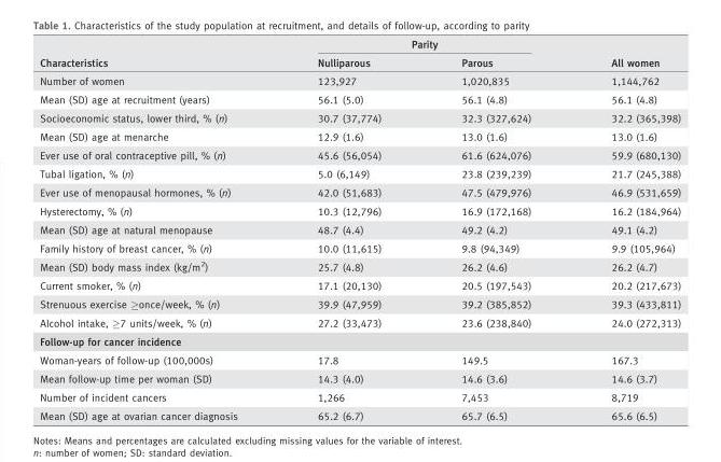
<table><thead><tr><td rowspan="2">Characteristics</td><td colspan="2">Parity</td><td rowspan="2">All women</td></tr><tr><td>Nulliparous</td><td>Parous</td></tr></thead><tbody><tr><td>Number of women</td><td>123,927</td><td>1,020,835</td><td>1,144,762</td></tr><tr><td>Mean (SD) age at recruitment (years)</td><td>56.1 (5.0)</td><td>56.1 (4.8)</td><td>56.1 (4.8)</td></tr><tr><td>Socioeconomic status, lower third, % (n)</td><td>30.7 (37,774)</td><td>32.3 (327,624)</td><td>32.2 (365,398)</td></tr><tr><td>Mean (SD) age at menarche</td><td>12.9 (1.6)</td><td>13.0 (1.6)</td><td>13.0 (1.6)</td></tr><tr><td>Ever use of oral contraceptive pill, % (n)</td><td>45.6 (56,054)</td><td>61.6 (624,076)</td><td>59.9 (680,130)</td></tr><tr><td>Tubal ligation, % (n)</td><td>5.0 (6,149)</td><td>23.8 (239,239)</td><td>21.7 (245,388)</td></tr><tr><td>Ever use of menopausal hormones, % (n)</td><td>42.0 (51,683)</td><td>47.5 (479,976)</td><td>46.9 (531,659)</td></tr><tr><td>Hysterectomy, % (n)</td><td>10.3 (12,796)</td><td>16.9 (172,168)</td><td>16.2 (184,964)</td></tr><tr><td>Mean (SD) age at natural menopause</td><td>48.7 (4.4)</td><td>49.2 (4.2)</td><td>49.1 (4.2)</td></tr><tr><td>Family history of breast cancer, % (n)</td><td>10.0 (11,615)</td><td>9.8 (94,349)</td><td>9.9 (105,964)</td></tr><tr><td>Mean (SD) body mass index (kg/m<sup>2</sup>)</td><td>25.7 (4.8)</td><td>26.2 (4.6)</td><td>26.2 (4.7)</td></tr><tr><td>Current smoker, % (n)</td><td>17.1 (20,130)</td><td>20.5 (197,543)</td><td>20.2 (217,673)</td></tr><tr><td>Strenuous exercise ≥once/week, % (n)</td><td>39.9 (47,959)</td><td>39.2 (385,852)</td><td>39.3 (433,811)</td></tr><tr><td>Alcohol intake, ≥7 units/week, % (n)</td><td>27.2 (33,473)</td><td>23.6 (238,840)</td><td>24.0 (272,313)</td></tr><tr><td colspan="4">Follow-up for cancer incidence</td></tr><tr><td>Woman-years of follow-up (100,000s)</td><td>17.8</td><td>149.5</td><td>167.3</td></tr><tr><td>Mean follow-up time per woman (SD)</td><td>14.3 (4.0)</td><td>14.6 (3.6)</td><td>14.6 (3.7)</td></tr><tr><td>Number of incident cancers</td><td>1,266</td><td>7,453</td><td>8,719</td></tr><tr><td>Mean (SD) age at ovarian cancer diagnosis</td><td>65.2 (6.7)</td><td>65.7 (6.5)</td><td>65.6 (6.5)</td></tr></tbody></table>